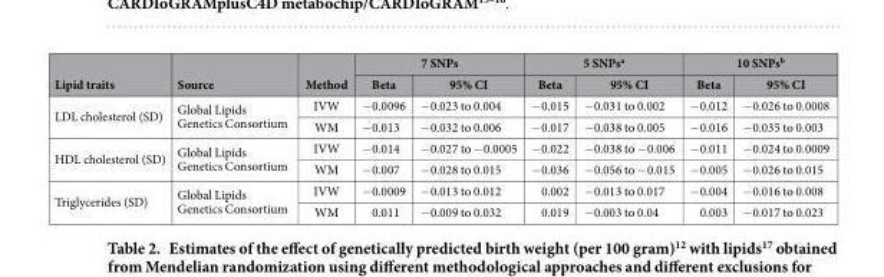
<table><thead><tr><td rowspan="2">Lipid traits</td><td rowspan="2">Source</td><td rowspan="2">Method</td><td colspan="2">7 SNPs</td><td colspan="2">5 SNPs<sup>a</sup></td><td colspan="2">10 SNPs<sup>b</sup></td></tr><tr><td>Beta</td><td>95% CI</td><td>Beta</td><td>95% CI</td><td>Beta</td><td>95% CI</td></tr></thead><tbody><tr><td rowspan="2">LDL cholesterol (SD)</td><td rowspan="2">Global Lipids Genetics Consortium</td><td>IVW</td><td>− 0.0096</td><td>− 0.023 to 0.004</td><td>− 0.015</td><td>− 0.031 to 0.002</td><td>− 0.012</td><td>− 0.026 to 0.0008</td></tr><tr><td>WM</td><td>− 0.013</td><td>− 0.032 to 0.006</td><td>− 0.017</td><td>− 0.038 to 0.005</td><td>− 0.016</td><td>− 0.035 to 0.003</td></tr><tr><td rowspan="2">HDL cholesterol (SD)</td><td rowspan="2">Global Lipids Genetics Consortium</td><td>IVW</td><td>− 0.014</td><td>− 0.027 to − 0.0005</td><td>− 0.022</td><td>− 0.038 to − 0.006</td><td>− 0.011</td><td>− 0.024 to 0.0009</td></tr><tr><td>WM</td><td>− 0.007</td><td>− 0.028 to 0.015</td><td>− 0.036</td><td>− 0.056 to − 0.015</td><td>− 0.005</td><td>− 0.026 to 0.015</td></tr><tr><td rowspan="2">Triglycerides (SD)</td><td rowspan="2">Global Lipids Genetics Consortium</td><td>IVW</td><td>− 0.0009</td><td>− 0.013 to 0.012</td><td>0.002</td><td>− 0.013 to 0.017</td><td>− 0.004</td><td>− 0.016 to 0.008</td></tr><tr><td>WM</td><td>0.011</td><td>− 0.009 to 0.032</td><td>0.019</td><td>− 0.003 to 0.04</td><td>0.003</td><td>− 0.017 to 0.023</td></tr></tbody></table>